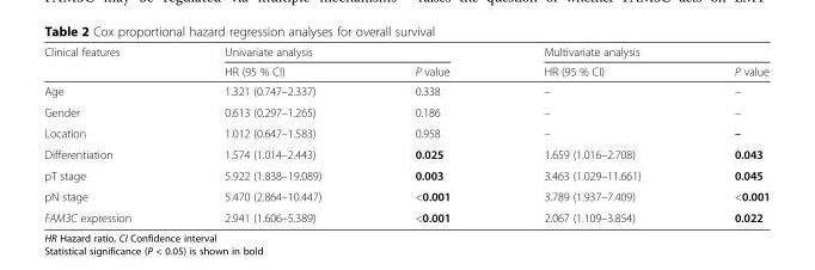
<table><thead><tr><td rowspan="2">Clinical features</td><td colspan="2">Univariate analysis</td><td colspan="2">Multivariate analysis</td></tr><tr><td>HR (95 % CI)</td><td>P value</td><td>HR (95 % CI)</td><td>P value</td></tr></thead><tbody><tr><td>Age</td><td>1.321 (0.747–2.337)</td><td>0.338</td><td>–</td><td>–</td></tr><tr><td>Gender</td><td>0.613 (0.297–1.265)</td><td>0.186</td><td>–</td><td>–</td></tr><tr><td>Location</td><td>1.012 (0.647–1.583)</td><td>0.958</td><td>–</td><td>–</td></tr><tr><td>Differentiation</td><td>1.574 (1.014–2.443)</td><td>0.025</td><td>1.659 (1.016–2.708)</td><td>0.043</td></tr><tr><td>pT stage</td><td>5.922 (1.838–19.089)</td><td>0.003</td><td>3.463 (1.029–11.661)</td><td>0.045</td></tr><tr><td>pN stage</td><td>5.470 (2.864–10.447)</td><td>&lt;0.001</td><td>3.789 (1.937–7.409)</td><td>&lt;0.001</td></tr><tr><td>FAM3C expression</td><td>2.941 (1.606–5.389)</td><td>&lt;0.001</td><td>2.067 (1.109–3.854)</td><td>0.022</td></tr></tbody></table>